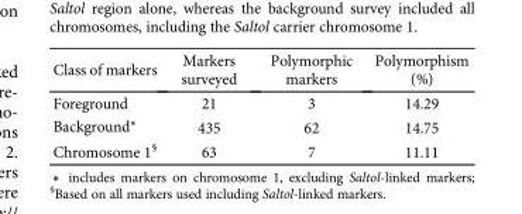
<table><thead><tr><td>Class of markers</td><td>Markers surveyed</td><td>Polymorphic markers</td><td>Polymorphism (%)</td></tr></thead><tbody><tr><td>Foreground</td><td>21</td><td>3</td><td>14.29</td></tr><tr><td>Background∗</td><td>435</td><td>62</td><td>14.75</td></tr><tr><td>Chromosome 1<sup>§</sup></td><td>63</td><td>7</td><td>11.11</td></tr></tbody></table>